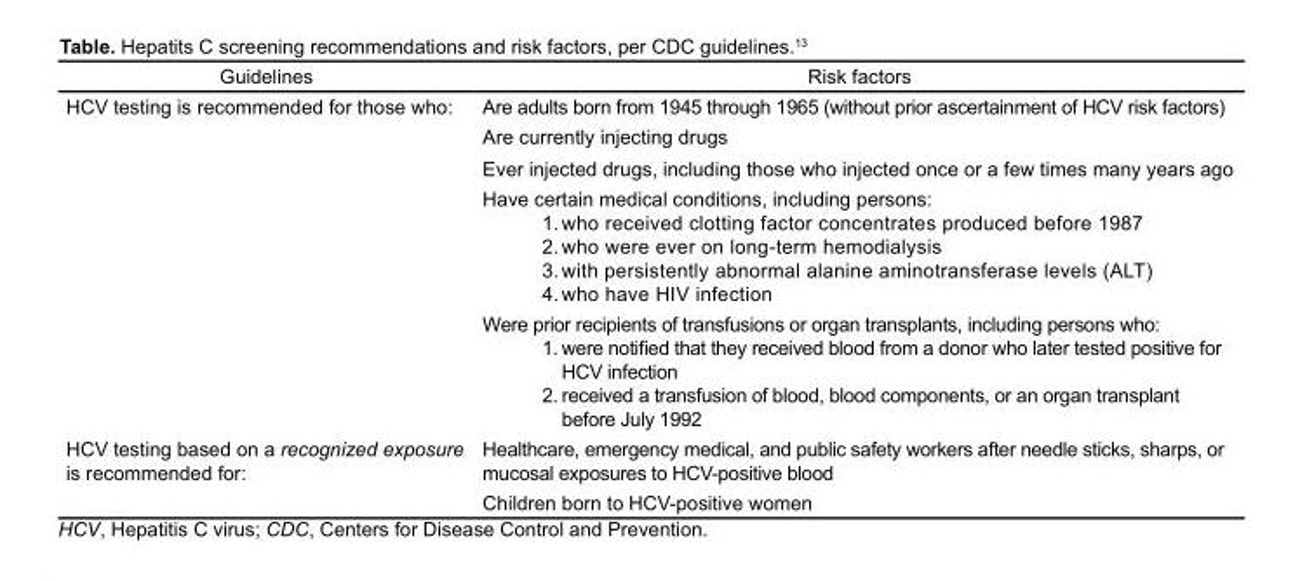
<table><thead><tr><td>Guidelines</td><td>Risk factors</td></tr></thead><tbody><tr><td>HCV testing is recommended for those who:</td><td>Are adults born from 1945 through 1965 (without prior ascertainment of HCV risk factors) Are currently injecting drugs Ever injected drugs, including those who injected once or a few times many years ago Have certain medical conditions, including persons: 1. who received clotting factor concentrates produced before 1987 2. who were ever on long-term hemodialysis 3. with persistently abnormal alanine aminotransferase levels (ALT) 4. who have HIV infection Were prior recipients of transfusions or organ transplants, including persons who: 1. were notified that they received blood from a donor who later tested positive for HCV infection 2. received a transfusion of blood, blood components, or an organ transplant before July 1992</td></tr><tr><td>HCV testing based on a recognized exposure is recommended for:</td><td>Healthcare, emergency medical, and public safety workers after needle sticks, sharps, or mucosal exposures to HCV-positive blood Children born to HCV-positive women</td></tr></tbody></table>